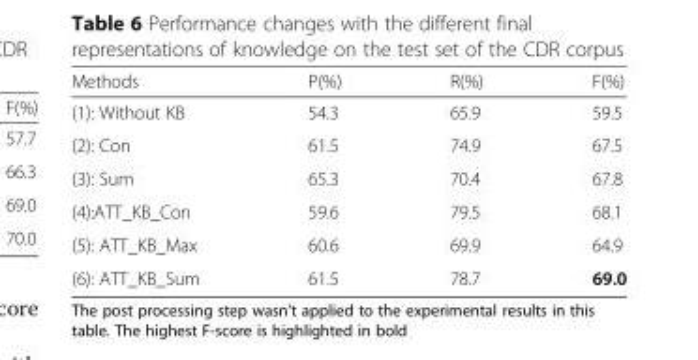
<table><thead><tr><td>Methods</td><td>P(%)</td><td>R(%)</td><td>F(%)</td></tr></thead><tbody><tr><td>(1): Without KB</td><td>54.3</td><td>65.9</td><td>59.5</td></tr><tr><td>(2): Con</td><td>61.5</td><td>74.9</td><td>67.5</td></tr><tr><td>(3): Sum</td><td>65.3</td><td>70.4</td><td>67.8</td></tr><tr><td>(4):ATT_KB_Con</td><td>59.6</td><td>79.5</td><td>68.1</td></tr><tr><td>(5): ATT_KB_Max</td><td>60.6</td><td>69.9</td><td>64.9</td></tr><tr><td>(6): ATT_KB_Sum</td><td>61.5</td><td>78.7</td><td>69.0</td></tr></tbody></table>